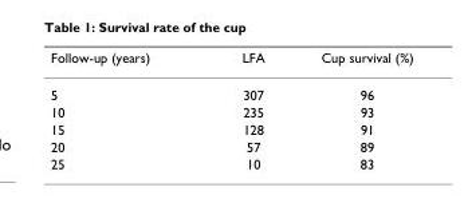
<table><thead><tr><td>Follow-up (years)</td><td>LFA</td><td>Cup survival (%)</td></tr></thead><tbody><tr><td>5</td><td>307</td><td>96</td></tr><tr><td>10</td><td>235</td><td>93</td></tr><tr><td>15</td><td>128</td><td>91</td></tr><tr><td>20</td><td>57</td><td>89</td></tr><tr><td>25</td><td>10</td><td>83</td></tr></tbody></table>